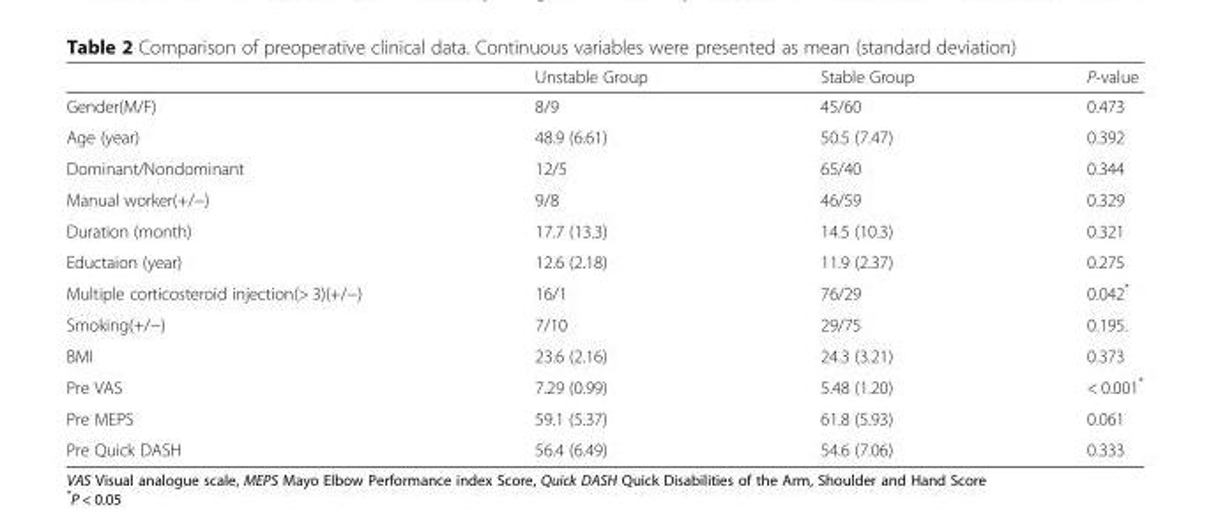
<table><thead><tr><td></td><td>Unstable Group</td><td>Stable Group</td><td>P-value</td></tr></thead><tbody><tr><td>Gender(M/F)</td><td>8/9</td><td>45/60</td><td>0.473</td></tr><tr><td>Age (year)</td><td>48.9 (6.61)</td><td>50.5 (7.47)</td><td>0.392</td></tr><tr><td>Dominant/Nondominant</td><td>12/5</td><td>65/40</td><td>0.344</td></tr><tr><td>Manual worker(+/−)</td><td>9/8</td><td>46/59</td><td>0.329</td></tr><tr><td>Duration (month)</td><td>17.7 (13.3)</td><td>14.5 (10.3)</td><td>0.321</td></tr><tr><td>Eductaion (year)</td><td>12.6 (2.18)</td><td>11.9 (2.37)</td><td>0.275</td></tr><tr><td>Multiple corticosteroid injection(&gt; 3)(+/−)</td><td>16/1</td><td>76/29</td><td>0.042*</td></tr><tr><td>Smoking(+/−)</td><td>7/10</td><td>29/75</td><td>0.195.</td></tr><tr><td>BMI</td><td>23.6 (2.16)</td><td>24.3 (3.21)</td><td>0.373</td></tr><tr><td>Pre VAS</td><td>7.29 (0.99)</td><td>5.48 (1.20)</td><td>&lt; 0.001*</td></tr><tr><td>Pre MEPS</td><td>59.1 (5.37)</td><td>61.8 (5.93)</td><td>0.061</td></tr><tr><td>Pre Quick DASH</td><td>56.4 (6.49)</td><td>54.6 (7.06)</td><td>0.333</td></tr></tbody></table>